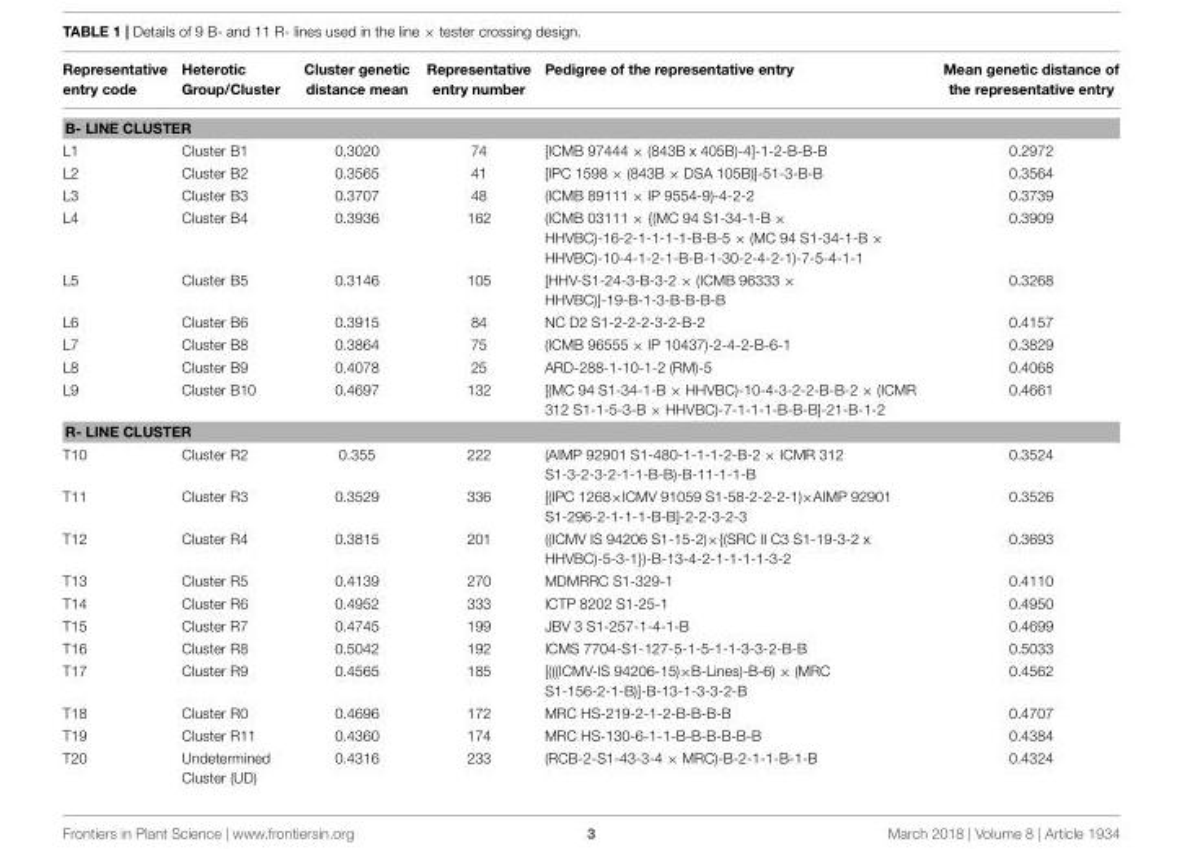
<table><thead><tr><td>Representative entry code</td><td>Heterotic Group/Cluster</td><td>Cluster genetic distance mean</td><td>Representative entry number</td><td>Pedigree of the representative entry</td><td>Mean genetic distance of the representative entry</td></tr></thead><tbody><tr><td colspan="6">B- LINE CLUSTER</td></tr><tr><td>L1</td><td>Cluster B1</td><td>0.3020</td><td>74</td><td>[ICMB 97444 × (843B x 405B)-4]-1-2-B-B-B</td><td>0.2972</td></tr><tr><td>L2</td><td>Cluster B2</td><td>0.3565</td><td>41</td><td>[IPC 1598 × (843B × DSA 105B)]-51-3-B-B</td><td>0.3564</td></tr><tr><td>L3</td><td>Cluster B3</td><td>0.3707</td><td>48</td><td>(ICMB 89111 × IP 9554-9)-4-2-2</td><td>0.3739</td></tr><tr><td>L4</td><td>Cluster B4</td><td>0.3936</td><td>162</td><td>(ICMB 03111 × {(MC 94 S1-34-1-B × HHVBC)-16-2-1-1-1-1-B-B-5 × (MC 94 S1-34-1-B × HHVBC)-10-4-1-2-1-B-B-1-30-2-4-2-1)-7-5-4-1-1</td><td>0.3909</td></tr><tr><td>L5</td><td>Cluster B5</td><td>0.3146</td><td>105</td><td>[HHV-S1-24-3-B-3-2 × (ICMB 96333 × HHVBC)]-19-B-1-3-B-B-B-B</td><td>0.3268</td></tr><tr><td>L6</td><td>Cluster B6</td><td>0.3915</td><td>84</td><td>NC D2 S1-2-2-2-3-2-B-2</td><td>0.4157</td></tr><tr><td>L7</td><td>Cluster B8</td><td>0.3864</td><td>75</td><td>(ICMB 96555 × IP 10437)-2-4-2-B-6-1</td><td>0.3829</td></tr><tr><td>L8</td><td>Cluster B9</td><td>0.4078</td><td>25</td><td>ARD-288-1-10-1-2 (RM)-5</td><td>0.4068</td></tr><tr><td>L9</td><td>Cluster B10</td><td>0.4697</td><td>132</td><td>[(MC 94 S1-34-1-B × HHVBC)-10-4-3-2-2-B-B-2 × (ICMR 312 S1-1-5-3-B × HHVBC)-7-1-1-1-B-B-B]-21-B-1-2</td><td>0.4661</td></tr><tr><td colspan="6">R- LINE CLUSTER</td></tr><tr><td>T10</td><td>Cluster R2</td><td>0.355</td><td>222</td><td>(AIMP 92901 S1-480-1-1-1-2-B-2 × ICMR 312 S1-3-2-3-2-1-1-B-B)-B-11-1-1-B</td><td>0.3524</td></tr><tr><td>T11</td><td>Cluster R3</td><td>0.3529</td><td>336</td><td>[(IPC 1268×ICMV 91059 S1-58-2-2-2-1)×AIMP 92901 S1-296-2-1-1-1-B-B]-2-2-3-2-3</td><td>0.3526</td></tr><tr><td>T12</td><td>Cluster R4</td><td>0.3815</td><td>201</td><td>((ICMV IS 94206 S1-15-2)×{(SRC II C3 S1-19-3-2 x HHVBC)-5-3-1})-B-13-4-2-1-1-1-1-3-2</td><td>0.3693</td></tr><tr><td>T13</td><td>Cluster R5</td><td>0.4139</td><td>270</td><td>MDMRRC S1-329-1</td><td>0.4110</td></tr><tr><td>T14</td><td>Cluster R6</td><td>0.4952</td><td>333</td><td>ICTP 8202 S1-25-1</td><td>0.4950</td></tr><tr><td>T15</td><td>Cluster R7</td><td>0.4745</td><td>199</td><td>JBV 3 S1-257-1-4-1-B</td><td>0.4699</td></tr><tr><td>T16</td><td>Cluster R8</td><td>0.5042</td><td>192</td><td>ICMS 7704-S1-127-5-1-5-1-1-3-3-2-B-B</td><td>0.5033</td></tr><tr><td>T17</td><td>Cluster R9</td><td>0.4565</td><td>185</td><td>[(((ICMV-IS 94206-15)×B-Lines)-B-6) × (MRC S1-156-2-1-B)]-B-13-1-3-3-2-B</td><td>0.4562</td></tr><tr><td>T18</td><td>Cluster R0</td><td>0.4696</td><td>172</td><td>MRC HS-219-2-1-2-B-B-B-B</td><td>0.4707</td></tr><tr><td>T19</td><td>Cluster R11</td><td>0.4360</td><td>174</td><td>MRC HS-130-6-1-1-B-B-B-B-B-B</td><td>0.4384</td></tr><tr><td>T20</td><td>Undetermined Cluster (UD)</td><td>0.4316</td><td>233</td><td>(RCB-2-S1-43-3-4 × MRC)-B-2-1-1-B-1-B</td><td>0.4324</td></tr></tbody></table>